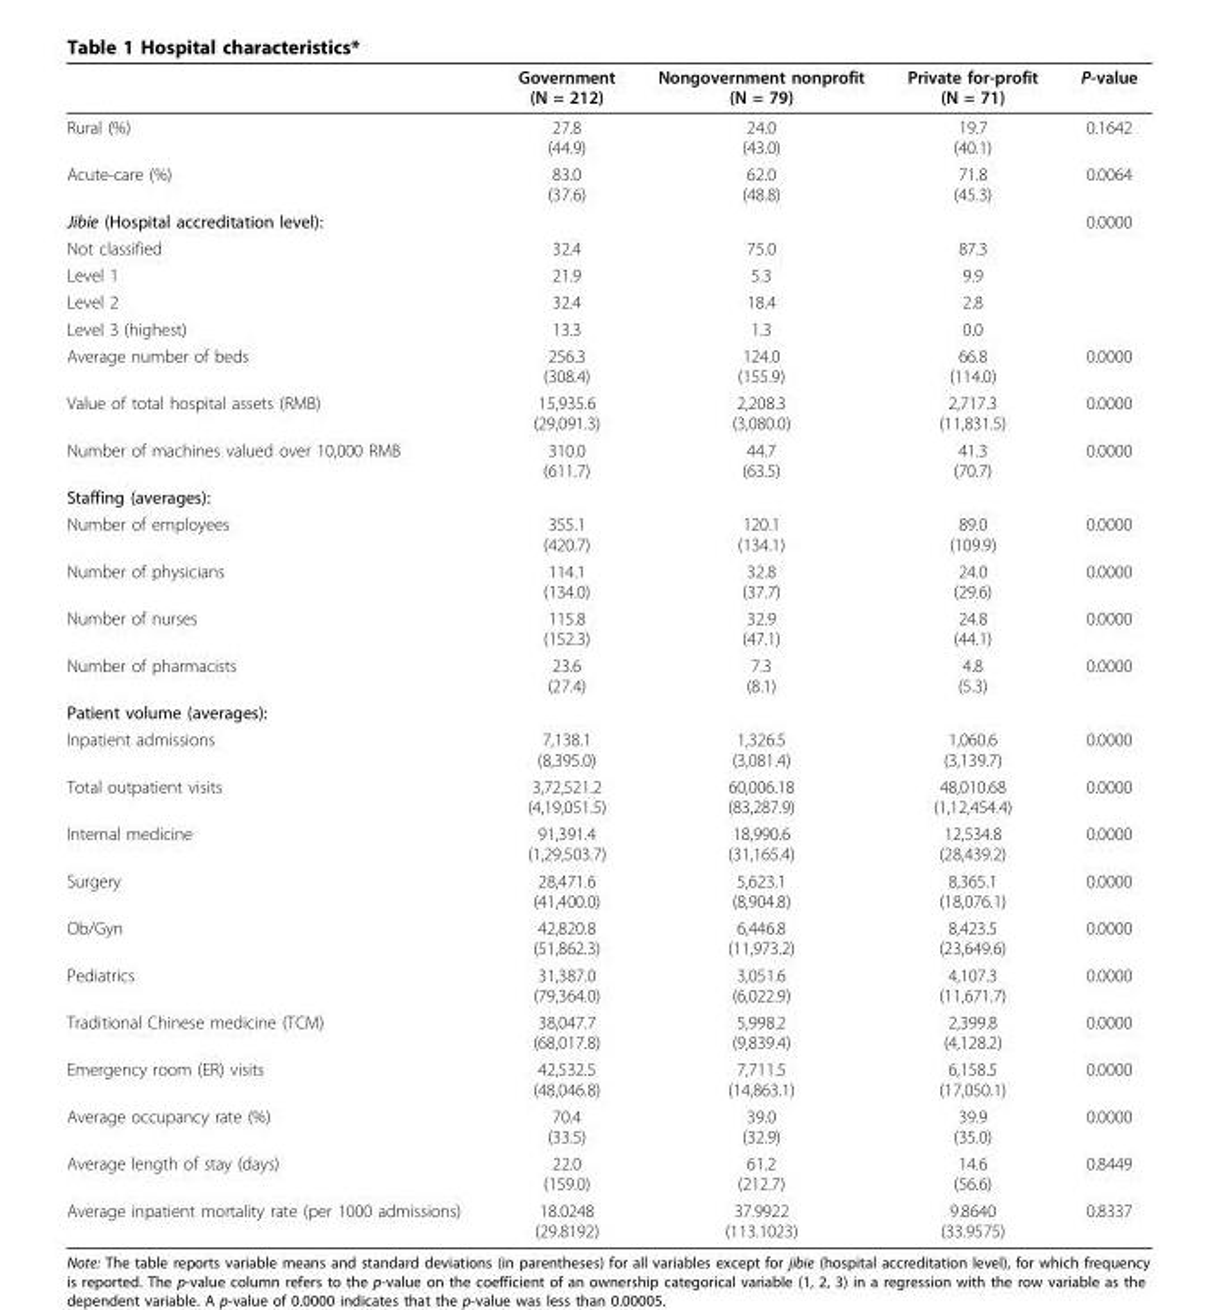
<table><thead><tr><td></td><td>Government (N = 212)</td><td>Nongovernment nonprofit (N = 79)</td><td>Private for-profit (N = 71)</td><td>P-value</td></tr></thead><tbody><tr><td>Rural (%)</td><td>27.8 (44.9)</td><td>24.0 (43.0)</td><td>19.7 (40.1)</td><td>0.1642</td></tr><tr><td>Acute-care (%)</td><td>83.0 (37.6)</td><td>62.0 (48.8)</td><td>71.8 (45.3)</td><td>0.0064</td></tr><tr><td>Jibie (Hospital accreditation level):</td><td></td><td></td><td></td><td>0.0000</td></tr><tr><td>Not classified</td><td>32.4</td><td>75.0</td><td>87.3</td><td></td></tr><tr><td>Level 1</td><td>21.9</td><td>5.3</td><td>9.9</td><td></td></tr><tr><td>Level 2</td><td>32.4</td><td>18.4</td><td>2.8</td><td></td></tr><tr><td>Level 3 (highest)</td><td>13.3</td><td>1.3</td><td>0.0</td><td></td></tr><tr><td>Average number of beds</td><td>256.3 (308.4)</td><td>124.0 (155.9)</td><td>66.8 (114.0)</td><td>0.0000</td></tr><tr><td>Value of total hospital assets (RMB)</td><td>15,935.6 (29,091.3)</td><td>2,208.3 (3,080.0)</td><td>2,717.3 (11,831.5)</td><td>0.0000</td></tr><tr><td>Number of machines valued over 10,000 RMB</td><td>310.0 (611.7)</td><td>44.7 (63.5)</td><td>41.3 (70.7)</td><td>0.0000</td></tr><tr><td colspan="5">Staffing (averages):</td></tr><tr><td>Number of employees</td><td>355.1 (420.7)</td><td>120.1 (134.1)</td><td>89.0 (109.9)</td><td>0.0000</td></tr><tr><td>Number of physicians</td><td>114.1 (134.0)</td><td>32.8 (37.7)</td><td>24.0 (29.6)</td><td>0.0000</td></tr><tr><td>Number of nurses</td><td>115.8 (152.3)</td><td>32.9 (47.1)</td><td>24.8 (44.1)</td><td>0.0000</td></tr><tr><td>Number of pharmacists</td><td>23.6 (27.4)</td><td>7.3 (8.1)</td><td>4.8 (5.3)</td><td>0.0000</td></tr><tr><td colspan="5">Patient volume (averages):</td></tr><tr><td>Inpatient admissions</td><td>7,138.1 (8,395.0)</td><td>1,326.5 (3,081.4)</td><td>1,060.6 (3,139.7)</td><td>0.0000</td></tr><tr><td>Total outpatient visits</td><td>3,72,521.2 (4,19,051.5)</td><td>60,006.18 (83,287.9)</td><td>48,010.68 (1,12,454.4)</td><td>0.0000</td></tr><tr><td>Internal medicine</td><td>91,391.4 (1,29,503.7)</td><td>18,990.6 (31,165.4)</td><td>12,534.8 (28,439.2)</td><td>0.0000</td></tr><tr><td>Surgery</td><td>28,471.6 (41,400.0)</td><td>5,623.1 (8,904.8)</td><td>8,365.1 (18,076.1)</td><td>0.0000</td></tr><tr><td>Ob/Gyn</td><td>42,820.8 (51,862.3)</td><td>6,446.8 (11,973.2)</td><td>8,423.5 (23,649.6)</td><td>0.0000</td></tr><tr><td>Pediatrics</td><td>31,387.0 (79,364.0)</td><td>3,051.6 (6,022.9)</td><td>4,107.3 (11,671.7)</td><td>0.0000</td></tr><tr><td>Traditional Chinese medicine (TCM)</td><td>38,047.7 (68,017.8)</td><td>5,998.2 (9,839.4)</td><td>2,399.8 (4,128.2)</td><td>0.0000</td></tr><tr><td>Emergency room (ER) visits</td><td>42,532.5 (48,046.8)</td><td>7,711.5 (14,863.1)</td><td>6,158.5 (17,050.1)</td><td>0.0000</td></tr><tr><td>Average occupancy rate (%)</td><td>70.4 (33.5)</td><td>39.0 (32.9)</td><td>39.9 (35.0)</td><td>0.0000</td></tr><tr><td>Average length of stay (days)</td><td>22.0 (159.0)</td><td>61.2 (212.7)</td><td>14.6 (56.6)</td><td>0.8449</td></tr><tr><td>Average inpatient mortality rate (per 1000 admissions)</td><td>18.0248 (29.8192)</td><td>37.9922 (113.1023)</td><td>9.8640 (33.9575)</td><td>0.8337</td></tr></tbody></table>